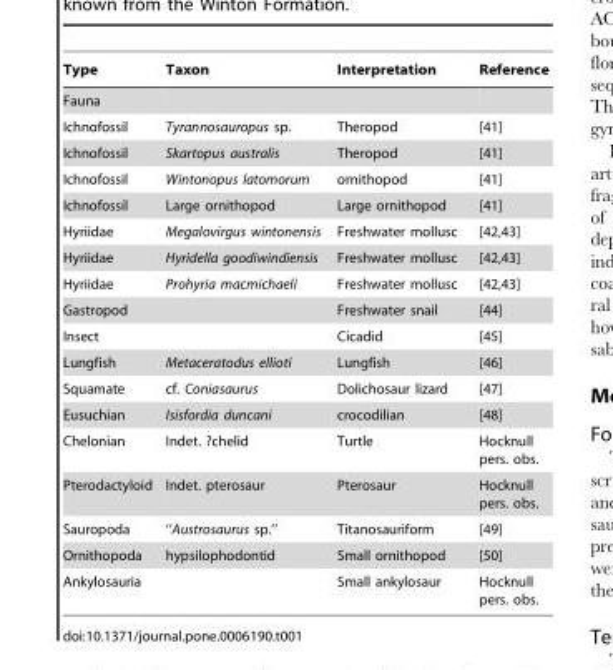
<table><thead><tr><td>Type</td><td>Taxon</td><td>Interpretation</td><td>Reference</td></tr></thead><tbody><tr><td colspan="4">Fauna</td></tr><tr><td>Ichnofossil</td><td>Tyrannosauropus sp.</td><td>Theropod</td><td>[41]</td></tr><tr><td>Ichnofossil</td><td>Skartopus australis</td><td>Theropod</td><td>[41]</td></tr><tr><td>Ichnofossil</td><td>Wintonopus latomorum</td><td>ornithopod</td><td>[41]</td></tr><tr><td>Ichnofossil</td><td>Large ornithopod</td><td>Large ornithopod</td><td>[41]</td></tr><tr><td>Hyriidae</td><td>Megalovirgus wintonensis</td><td>Freshwater mollusc</td><td>[42,43]</td></tr><tr><td>Hyriidae</td><td>Hyridella goodiwindiensis</td><td>Freshwater mollusc</td><td>[42,43]</td></tr><tr><td>Hyriidae</td><td>Prohyria macmichaeli</td><td>Freshwater mollusc</td><td>[42,43]</td></tr><tr><td>Gastropod</td><td></td><td>Freshwater snail</td><td>[44]</td></tr><tr><td>Insect</td><td></td><td>Cicadid</td><td>[45]</td></tr><tr><td>Lungfish</td><td>Metaceratodus ellioti</td><td>Lungfish</td><td>[46]</td></tr><tr><td>Squamate</td><td>cf. Coniasaurus</td><td>Dolichosaur lizard</td><td>[47]</td></tr><tr><td>Eusuchian</td><td>Isisfordia duncani</td><td>crocodilian</td><td>[48]</td></tr><tr><td>Chelonian</td><td>Indet. ?chelid</td><td>Turtle</td><td>Hocknull pers. obs.</td></tr><tr><td>Pterodactyloid</td><td>Indet. pterosaur</td><td>Pterosaur</td><td>Hocknull pers. obs.</td></tr><tr><td>Sauropoda</td><td>‘‘Austrosaurus sp.’’</td><td>Titanosauriform</td><td>[49]</td></tr><tr><td>Ornithopoda</td><td>hypsilophodontid</td><td>Small ornithopod</td><td>[50]</td></tr><tr><td>Ankylosauria</td><td></td><td>Small ankylosaur</td><td>Hocknull pers. obs.</td></tr></tbody></table>